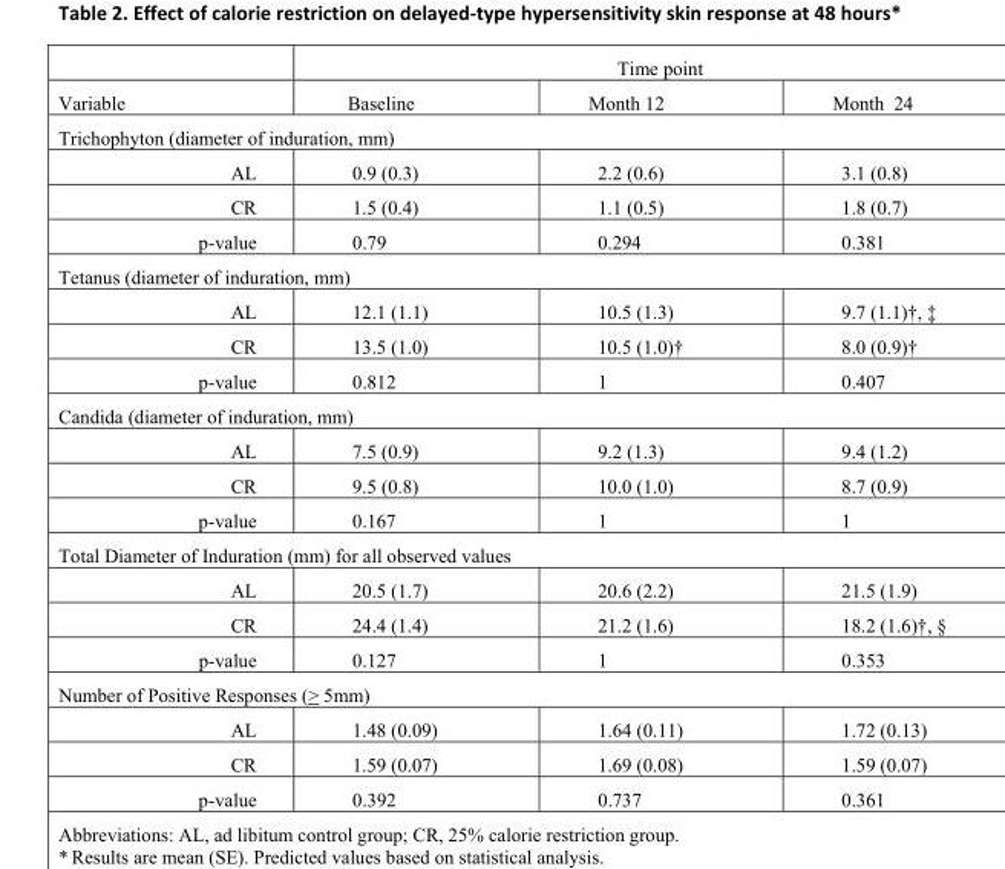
<table><thead><tr><td rowspan="2">Variable</td><td colspan="3">Time point</td></tr><tr><td>Baseline</td><td>Month 12</td><td>Month 24</td></tr></thead><tbody><tr><td colspan="4">Trichophyton (diameter of induration, mm)</td></tr><tr><td>AL</td><td>0.9 (0.3)</td><td>2.2 (0.6)</td><td>3.1 (0.8)</td></tr><tr><td>CR</td><td>1.5 (0.4)</td><td>1.1 (0.5)</td><td>1.8 (0.7)</td></tr><tr><td>p-value</td><td>0.79</td><td>0.294</td><td>0.381</td></tr><tr><td colspan="4">Tetanus (diameter of induration, mm)</td></tr><tr><td>AL</td><td>12.1 (1.1)</td><td>10.5 (1.3)</td><td>9.7 (1.1)†, ‡</td></tr><tr><td>CR</td><td>13.5 (1.0)</td><td>10.5 (1.0)†</td><td>8.0 (0.9)†</td></tr><tr><td>p-value</td><td>0.812</td><td>1</td><td>0.407</td></tr><tr><td colspan="4">Candida (diameter of induration, mm)</td></tr><tr><td>AL</td><td>7.5 (0.9)</td><td>9.2 (1.3)</td><td>9.4 (1.2)</td></tr><tr><td>CR</td><td>9.5 (0.8)</td><td>10.0 (1.0)</td><td>8.7 (0.9)</td></tr><tr><td>p-value</td><td>0.167</td><td>1</td><td>1</td></tr><tr><td colspan="4">Total Diameter of Induration (mm) for all observed values</td></tr><tr><td>AL</td><td>20.5 (1.7)</td><td>20.6 (2.2)</td><td>21.5 (1.9)</td></tr><tr><td>CR</td><td>24.4 (1.4)</td><td>21.2 (1.6)</td><td>18.2 (1.6)†, §</td></tr><tr><td>p-value</td><td>0.127</td><td>1</td><td>0.353</td></tr><tr><td colspan="4">Number of Positive Responses (&gt; 5mm)</td></tr><tr><td>AL</td><td>1.48 (0.09)</td><td>1.64 (0.11)</td><td>1.72 (0.13)</td></tr><tr><td>CR</td><td>1.59 (0.07)</td><td>1.69 (0.08)</td><td>1.59 (0.07)</td></tr><tr><td>p-value</td><td>0.392</td><td>0.737</td><td>0.361</td></tr></tbody></table>